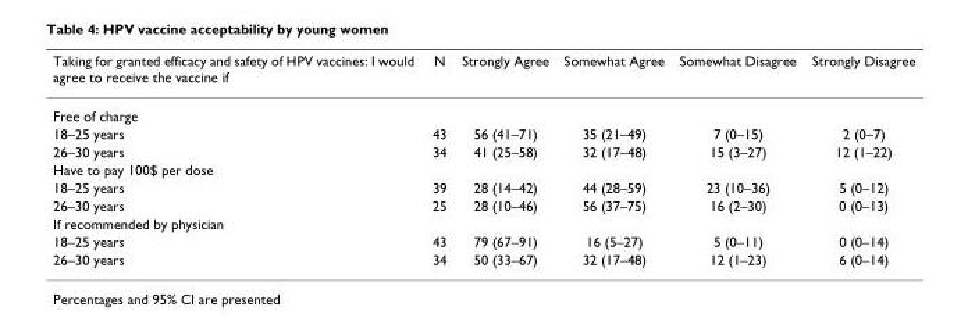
<table><thead><tr><td>Taking for granted efficacy and safety of HPV vaccines: I would agree to receive the vaccine if</td><td>N</td><td>Strongly Agree</td><td>Somewhat Agree</td><td>Somewhat Disagree</td><td>Strongly Disagree</td></tr></thead><tbody><tr><td colspan="6">Free of charge</td></tr><tr><td>18–25 years</td><td>43</td><td>56 (41–71)</td><td>35 (21–49)</td><td>7 (0–15)</td><td>2 (0–7)</td></tr><tr><td>26–30 years</td><td>34</td><td>41 (25–58)</td><td>32 (17–48)</td><td>15 (3–27)</td><td>12 (1–22)</td></tr><tr><td colspan="6">Have to pay 100$ per dose</td></tr><tr><td>18–25 years</td><td>39</td><td>28 (14–42)</td><td>44 (28–59)</td><td>23 (10–36)</td><td>5 (0–12)</td></tr><tr><td>26–30 years</td><td>25</td><td>28 (10–46)</td><td>56 (37–75)</td><td>16 (2–30)</td><td>0 (0–13)</td></tr><tr><td colspan="6">If recommended by physician</td></tr><tr><td>18–25 years</td><td>43</td><td>79 (67–91)</td><td>16 (5–27)</td><td>5 (0–11)</td><td>0 (0–14)</td></tr><tr><td>26–30 years</td><td>34</td><td>50 (33–67)</td><td>32 (17–48)</td><td>12 (1–23)</td><td>6 (0–14)</td></tr></tbody></table>